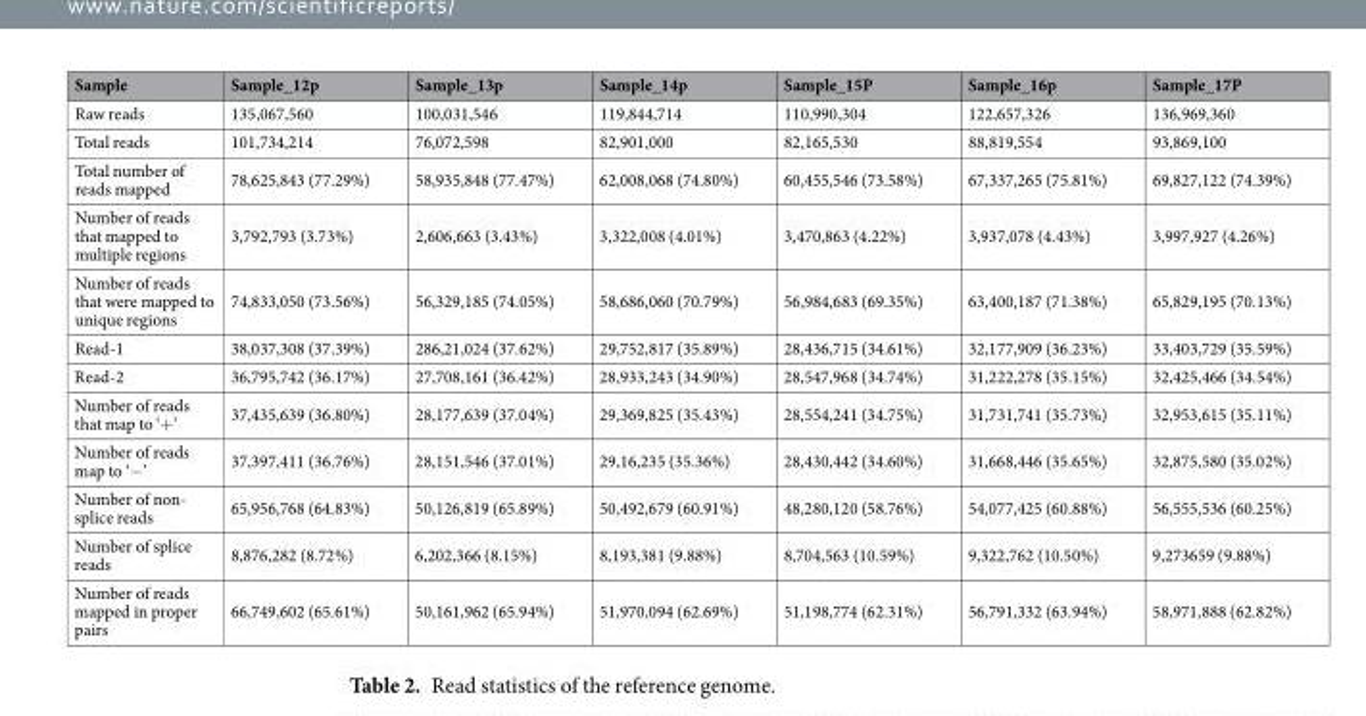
<table><thead><tr><td>Sample</td><td>Sample_12p</td><td>Sample_13p</td><td>Sample_14p</td><td>Sample_15P</td><td>Sample_16p</td><td>Sample_17P</td></tr></thead><tbody><tr><td>Raw reads</td><td>135,067,560</td><td>100,031,546</td><td>119,844,714</td><td>110,990,304</td><td>122,657,326</td><td>136,969,360</td></tr><tr><td>Total reads</td><td>101,734,214</td><td>76,072,598</td><td>82,901,000</td><td>82,165,530</td><td>88,819,554</td><td>93,869,100</td></tr><tr><td>Total number of reads mapped</td><td>78,625,843 (77.29%)</td><td>58,935,848 (77.47%)</td><td>62,008,068 (74.80%)</td><td>60,455,546 (73.58%)</td><td>67,337,265 (75.81%)</td><td>69,827,122 (74.39%)</td></tr><tr><td>Number of reads that mapped to multiple regions</td><td>3,792,793 (3.73%)</td><td>2,606,663 (3.43%)</td><td>3,322,008 (4.01%)</td><td>3,470,863 (4.22%)</td><td>3,937,078 (4.43%)</td><td>3,997,927 (4.26%)</td></tr><tr><td>Number of reads that were mapped to unique regions</td><td>74,833,050 (73.56%)</td><td>56,329,185 (74.05%)</td><td>58,686,060 (70.79%)</td><td>56,984,683 (69.35%)</td><td>63,400,187 (71.38%)</td><td>65,829,195 (70.13%)</td></tr><tr><td>Read-1</td><td>38,037,308 (37.39%)</td><td>286,21,024 (37.62%)</td><td>29,752,817 (35.89%)</td><td>28,436,715 (34.61%)</td><td>32,177,909 (36.23%)</td><td>33,403,729 (35.59%)</td></tr><tr><td>Read-2</td><td>36,795,742 (36.17%)</td><td>27,708,161 (36.42%)</td><td>28,933,243 (34.90%)</td><td>28,547,968 (34.74%)</td><td>31,222,278 (35.15%)</td><td>32,425,466 (34.54%)</td></tr><tr><td>Number of reads that map to ‘+’</td><td>37,435,639 (36.80%)</td><td>28,177,639 (37.04%)</td><td>29,369,825 (35.43%)</td><td>28,554,241 (34.75%)</td><td>31,731,741 (35.73%)</td><td>32,953,615 (35.11%)</td></tr><tr><td>Number of reads map to ‘−’</td><td>37,397,411 (36.76%)</td><td>28,151,546 (37.01%)</td><td>29,16,235 (35.36%)</td><td>28,430,442 (34.60%)</td><td>31,668,446 (35.65%)</td><td>32,875,580 (35.02%)</td></tr><tr><td>Number of non- splice reads</td><td>65,956,768 (64.83%)</td><td>50,126,819 (65.89%)</td><td>50,492,679 (60.91%)</td><td>48,280,120 (58.76%)</td><td>54,077,425 (60.88%)</td><td>56,555,536 (60.25%)</td></tr><tr><td>Number of splice reads</td><td>8,876,282 (8.72%)</td><td>6,202,366 (8.15%)</td><td>8,193,381 (9.88%)</td><td>8,704,563 (10.59%)</td><td>9,322,762 (10.50%)</td><td>9,273659 (9.88%)</td></tr><tr><td>Number of reads mapped in proper pairs</td><td>66,749,602 (65.61%)</td><td>50,161,962 (65.94%)</td><td>51,970,094 (62.69%)</td><td>51,198,774 (62.31%)</td><td>56,791,332 (63.94%)</td><td>58,971,888 (62.82%)</td></tr></tbody></table>